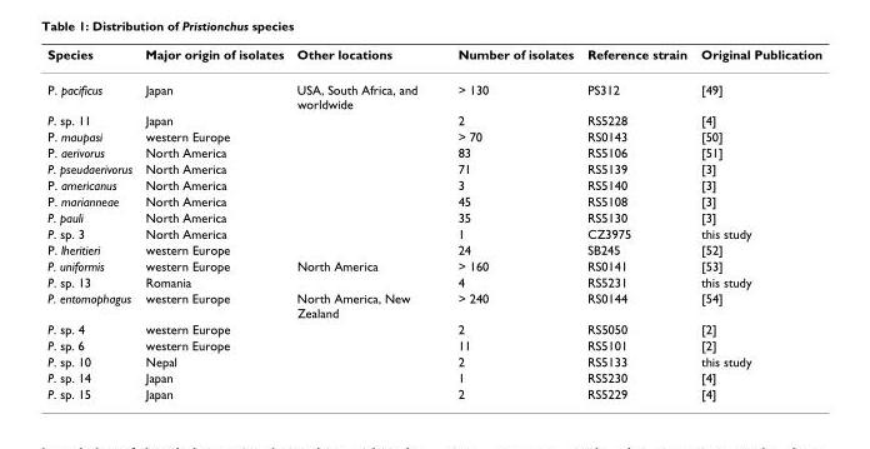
<table><thead><tr><td>Species</td><td>Major origin of isolates</td><td>Other locations</td><td>Number of isolates</td><td>Reference strain</td><td>Original Publication</td></tr></thead><tbody><tr><td>P. pacificus</td><td>Japan</td><td>USA, South Africa, and worldwide</td><td>&gt; 130</td><td>PS312</td><td>[49]</td></tr><tr><td>P. sp. 11</td><td>Japan</td><td></td><td>2</td><td>RS5228</td><td>[4]</td></tr><tr><td>P. maupasi</td><td>western Europe</td><td></td><td>&gt; 70</td><td>RS0143</td><td>[50]</td></tr><tr><td>P. aerivorus</td><td>North America</td><td></td><td>83</td><td>RS5106</td><td>[51]</td></tr><tr><td>P. pseudaerivorus</td><td>North America</td><td></td><td>71</td><td>RS5139</td><td>[3]</td></tr><tr><td>P. americanus</td><td>North America</td><td></td><td>3</td><td>RS5140</td><td>[3]</td></tr><tr><td>P. marianneae</td><td>North America</td><td></td><td>45</td><td>RS5108</td><td>[3]</td></tr><tr><td>P. pauli</td><td>North America</td><td></td><td>35</td><td>RS5130</td><td>[3]</td></tr><tr><td>P. sp. 3</td><td>North America</td><td></td><td>1</td><td>CZ3975</td><td>this study</td></tr><tr><td>P. lheritieri</td><td>western Europe</td><td></td><td>24</td><td>SB245</td><td>[52]</td></tr><tr><td>P. uniformis</td><td>western Europe</td><td>North America</td><td>&gt; 160</td><td>RS0141</td><td>[53]</td></tr><tr><td>P. sp. 13</td><td>Romania</td><td></td><td>4</td><td>RS5231</td><td>this study</td></tr><tr><td>P. entomophagus</td><td>western Europe</td><td>North America, New Zealand</td><td>&gt; 240</td><td>RS0144</td><td>[54]</td></tr><tr><td>P. sp. 4</td><td>western Europe</td><td></td><td>2</td><td>RS5050</td><td>[2]</td></tr><tr><td>P. sp. 6</td><td>western Europe</td><td></td><td>11</td><td>RS5101</td><td>[2]</td></tr><tr><td>P. sp. 10</td><td>Nepal</td><td></td><td>2</td><td>RS5133</td><td>this study</td></tr><tr><td>P. sp. 14</td><td>Japan</td><td></td><td>1</td><td>RS5230</td><td>[4]</td></tr><tr><td>P. sp. 15</td><td>Japan</td><td></td><td>2</td><td>RS5229</td><td>[4]</td></tr></tbody></table>